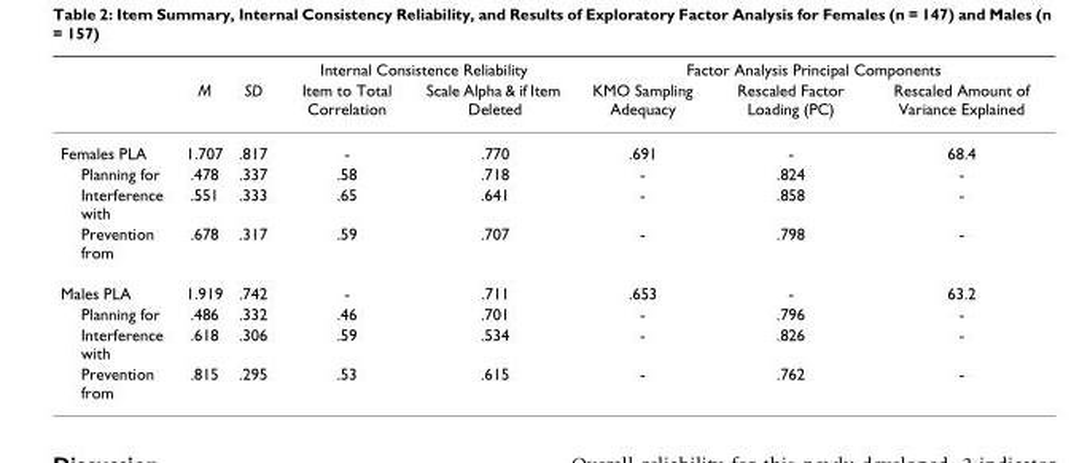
<table><thead><tr><td rowspan="2"></td><td rowspan="2">M</td><td rowspan="2">SD</td><td colspan="2">Internal Consistence Reliability</td><td colspan="3">Factor Analysis Principal Components</td></tr><tr><td>Item to Total Correlation</td><td>Scale Alpha &amp; if Item Deleted</td><td>KMO Sampling Adequacy</td><td>Rescaled Factor Loading (PC)</td><td>Rescaled Amount of Variance Explained</td></tr></thead><tbody><tr><td>Females PLA</td><td>1.707</td><td>.817</td><td>-</td><td>.770</td><td>.691</td><td>-</td><td>68.4</td></tr><tr><td>Planning for</td><td>.478</td><td>.337</td><td>.58</td><td>.718</td><td>-</td><td>.824</td><td>-</td></tr><tr><td>Interference with</td><td>.551</td><td>.333</td><td>.65</td><td>.641</td><td>-</td><td>.858</td><td>-</td></tr><tr><td>Prevention from</td><td>.678</td><td>.317</td><td>.59</td><td>.707</td><td>-</td><td>.798</td><td>-</td></tr><tr><td>Males PLA</td><td>1.919</td><td>.742</td><td>-</td><td>.711</td><td>.653</td><td>-</td><td>63.2</td></tr><tr><td>Planning for</td><td>.486</td><td>.332</td><td>.46</td><td>.701</td><td>-</td><td>.796</td><td>-</td></tr><tr><td>Interference with</td><td>.618</td><td>.306</td><td>.59</td><td>.534</td><td>-</td><td>.826</td><td>-</td></tr><tr><td>Prevention from</td><td>.815</td><td>.295</td><td>.53</td><td>.615</td><td>-</td><td>.762</td><td>-</td></tr></tbody></table>